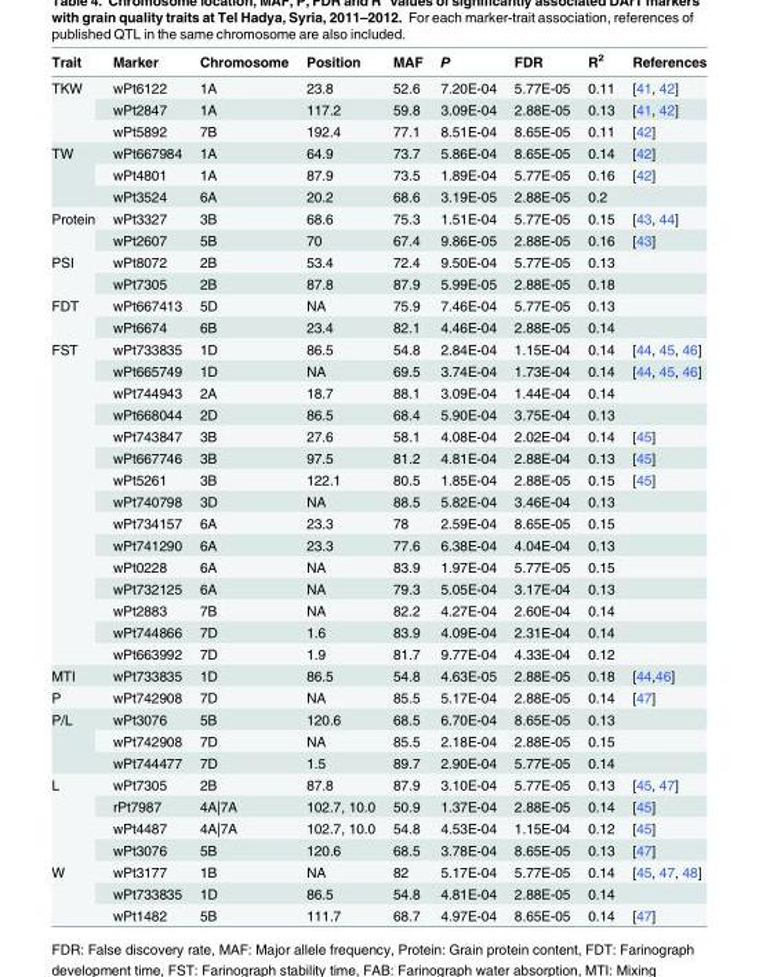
<table><thead><tr><td>Trait</td><td>Marker</td><td>Chromosome</td><td>Position</td><td>MAF</td><td>P</td><td>FDR</td><td>R<sup>2</sup></td><td>References</td></tr></thead><tbody><tr><td rowspan="3">TKW</td><td>wPt6122</td><td>1A</td><td>23.8</td><td>52.6</td><td>7.20E-04</td><td>5.77E-05</td><td>0.11</td><td>[41, 42]</td></tr><tr><td>wPt2847</td><td>1A</td><td>117.2</td><td>59.8</td><td>3.09E-04</td><td>2.88E-05</td><td>0.13</td><td>[41, 42]</td></tr><tr><td>wPt5892</td><td>7B</td><td>192.4</td><td>77.1</td><td>8.51E-04</td><td>8.65E-05</td><td>0.11</td><td>[42]</td></tr><tr><td rowspan="3">TW</td><td>wPt667984</td><td>1A</td><td>64.9</td><td>73.7</td><td>5.86E-04</td><td>8.65E-05</td><td>0.14</td><td>[42]</td></tr><tr><td>wPt4801</td><td>1A</td><td>87.9</td><td>73.5</td><td>1.89E-04</td><td>5.77E-05</td><td>0.16</td><td>[42]</td></tr><tr><td>wPt3524</td><td>6A</td><td>20.2</td><td>68.6</td><td>3.19E-05</td><td>2.88E-05</td><td>0.2</td><td></td></tr><tr><td rowspan="2">Protein</td><td>wPt3327</td><td>3B</td><td>68.6</td><td>75.3</td><td>1.51E-04</td><td>5.77E-05</td><td>0.15</td><td>[43, 44]</td></tr><tr><td>wPt2607</td><td>5B</td><td>70</td><td>67.4</td><td>9.86E-05</td><td>2.88E-05</td><td>0.16</td><td>[43]</td></tr><tr><td rowspan="2">PSI</td><td>wPt8072</td><td>2B</td><td>53.4</td><td>72.4</td><td>9.50E-04</td><td>5.77E-05</td><td>0.13</td><td></td></tr><tr><td>wPt7305</td><td>2B</td><td>87.8</td><td>87.9</td><td>5.99E-05</td><td>2.88E-05</td><td>0.18</td><td></td></tr><tr><td rowspan="2">FDT</td><td>wPt667413</td><td>5D</td><td>NA</td><td>75.9</td><td>7.46E-04</td><td>5.77E-05</td><td>0.13</td><td></td></tr><tr><td>wPt6674</td><td>6B</td><td>23.4</td><td>82.1</td><td>4.46E-04</td><td>2.88E-05</td><td>0.14</td><td></td></tr><tr><td rowspan="15">FST</td><td>wPt733835</td><td>1D</td><td>86.5</td><td>54.8</td><td>2.84E-04</td><td>1.15E-04</td><td>0.14</td><td>[44, 45, 46]</td></tr><tr><td>wPt665749</td><td>1D</td><td>NA</td><td>69.5</td><td>3.74E-04</td><td>1.73E-04</td><td>0.14</td><td>[44, 45, 46]</td></tr><tr><td>wPt744943</td><td>2A</td><td>18.7</td><td>88.1</td><td>3.09E-04</td><td>1.44E-04</td><td>0.14</td><td></td></tr><tr><td>wPt668044</td><td>2D</td><td>86.5</td><td>68.4</td><td>5.90E-04</td><td>3.75E-04</td><td>0.13</td><td></td></tr><tr><td>wPt743847</td><td>3B</td><td>27.6</td><td>58.1</td><td>4.08E-04</td><td>2.02E-04</td><td>0.14</td><td>[45]</td></tr><tr><td>wPt667746</td><td>3B</td><td>97.5</td><td>81.2</td><td>4.81E-04</td><td>2.88E-04</td><td>0.13</td><td>[45]</td></tr><tr><td>wPt5261</td><td>3B</td><td>122.1</td><td>80.5</td><td>1.85E-04</td><td>2.88E-05</td><td>0.15</td><td>[45]</td></tr><tr><td>wPt740798</td><td>3D</td><td>NA</td><td>88.5</td><td>5.82E-04</td><td>3.46E-04</td><td>0.13</td><td></td></tr><tr><td>wPt734157</td><td>6A</td><td>23.3</td><td>78</td><td>2.59E-04</td><td>8.65E-05</td><td>0.15</td><td></td></tr><tr><td>wPt741290</td><td>6A</td><td>23.3</td><td>77.6</td><td>6.38E-04</td><td>4.04E-04</td><td>0.13</td><td></td></tr><tr><td>wPt0228</td><td>6A</td><td>NA</td><td>83.9</td><td>1.97E-04</td><td>5.77E-05</td><td>0.15</td><td></td></tr><tr><td>wPt732125</td><td>6A</td><td>NA</td><td>79.3</td><td>5.05E-04</td><td>3.17E-04</td><td>0.13</td><td></td></tr><tr><td>wPt2883</td><td>7B</td><td>NA</td><td>82.2</td><td>4.27E-04</td><td>2.60E-04</td><td>0.14</td><td></td></tr><tr><td>wPt744866</td><td>7D</td><td>1.6</td><td>83.9</td><td>4.09E-04</td><td>2.31E-04</td><td>0.14</td><td></td></tr><tr><td>wPt663992</td><td>7D</td><td>1.9</td><td>81.7</td><td>9.77E-04</td><td>4.33E-04</td><td>0.12</td><td></td></tr><tr><td>MTI</td><td>wPt733835</td><td>1D</td><td>86.5</td><td>54.8</td><td>4.63E-05</td><td>2.88E-05</td><td>0.18</td><td>[44,46]</td></tr><tr><td>P</td><td>wPt742908</td><td>7D</td><td>NA</td><td>85.5</td><td>5.17E-04</td><td>2.88E-05</td><td>0.14</td><td>[47]</td></tr><tr><td rowspan="3">P/L</td><td>wPt3076</td><td>5B</td><td>120.6</td><td>68.5</td><td>6.70E-04</td><td>8.65E-05</td><td>0.13</td><td></td></tr><tr><td>wPt742908</td><td>7D</td><td>NA</td><td>85.5</td><td>2.18E-04</td><td>2.88E-05</td><td>0.15</td><td></td></tr><tr><td>wPt744477</td><td>7D</td><td>1.5</td><td>89.7</td><td>2.90E-04</td><td>5.77E-05</td><td>0.14</td><td></td></tr><tr><td rowspan="4">L</td><td>wPt7305</td><td>2B</td><td>87.8</td><td>87.9</td><td>3.10E-04</td><td>5.77E-05</td><td>0.13</td><td>[45, 47]</td></tr><tr><td>rPt7987</td><td>4A|7A</td><td>102.7, 10.0</td><td>50.9</td><td>1.37E-04</td><td>2.88E-05</td><td>0.14</td><td>[45]</td></tr><tr><td>wPt4487</td><td>4A|7A</td><td>102.7, 10.0</td><td>54.8</td><td>4.53E-04</td><td>1.15E-04</td><td>0.12</td><td>[45]</td></tr><tr><td>wPt3076</td><td>5B</td><td>120.6</td><td>68.5</td><td>3.78E-04</td><td>8.65E-05</td><td>0.13</td><td>[47]</td></tr><tr><td rowspan="3">W</td><td>wPt3177</td><td>1B</td><td>NA</td><td>82</td><td>5.17E-04</td><td>5.77E-05</td><td>0.14</td><td>[45, 47, 48]</td></tr><tr><td>wPt733835</td><td>1D</td><td>86.5</td><td>54.8</td><td>4.81E-04</td><td>2.88E-05</td><td>0.14</td><td></td></tr><tr><td>wPt1482</td><td>5B</td><td>111.7</td><td>68.7</td><td>4.97E-04</td><td>8.65E-05</td><td>0.14</td><td>[47]</td></tr></tbody></table>